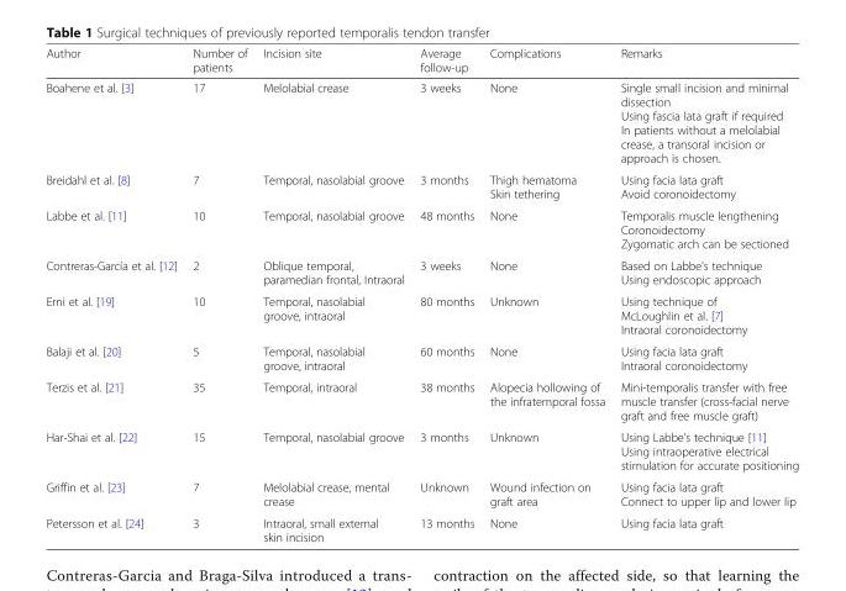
<table><thead><tr><td>Author</td><td>Number of patients</td><td>Incision site</td><td>Average follow-up</td><td>Complications</td><td>Remarks</td></tr></thead><tbody><tr><td>Boahene et al. [3]</td><td>17</td><td>Melolabial crease</td><td>3 weeks</td><td>None</td><td>Single small incision and minimal dissection Using fascia lata graft if required In patients without a melolabial crease, a transoral incision or approach is chosen.</td></tr><tr><td>Breidahl et al. [8]</td><td>7</td><td>Temporal, nasolabial groove</td><td>3 months</td><td>Thigh hematoma Skin tethering</td><td>Using facia lata graft Avoid coronoidectomy</td></tr><tr><td>Labbe et al. [11]</td><td>10</td><td>Temporal, nasolabial groove</td><td>48 months</td><td>None</td><td>Temporalis muscle lengthening Coronoidectomy Zygomatic arch can be sectioned</td></tr><tr><td>Contreras-García et al. [12]</td><td>2</td><td>Oblique temporal, paramedian frontal, Intraoral</td><td>3 weeks</td><td>None</td><td>Based on Labbe’s technique Using endoscopic approach</td></tr><tr><td>Erni et al. [19]</td><td>10</td><td>Temporal, nasolabial groove, intraoral</td><td>80 months</td><td>Unknown</td><td>Using technique of McLoughlin et al. [7] Intraoral coronoidectomy</td></tr><tr><td>Balaji et al. [20]</td><td>5</td><td>Temporal, nasolabial groove, intraoral</td><td>60 months</td><td>None</td><td>Using facia lata graft Intraoral coronoidectomy</td></tr><tr><td>Terzis et al. [21]</td><td>35</td><td>Temporal, intraoral</td><td>38 months</td><td>Alopecia hollowing of the infratemporal fossa</td><td>Mini-temporalis transfer with free muscle transfer (cross-facial nerve graft and free muscle graft)</td></tr><tr><td>Har-Shai et al. [22]</td><td>15</td><td>Temporal, nasolabial groove</td><td>3 months</td><td>Unknown</td><td>Using Labbe’s technique [11] Using intraoperative electrical stimulation for accurate positioning</td></tr><tr><td>Griffin et al. [23]</td><td>7</td><td>Melolabial crease, mental crease</td><td>Unknown</td><td>Wound infection on graft area</td><td>Using facia lata graft Connect to upper lip and lower lip</td></tr><tr><td>Petersson et al. [24]</td><td>3</td><td>Intraoral, small external skin incision</td><td>13 months</td><td>None</td><td>Using facia lata graft</td></tr></tbody></table>